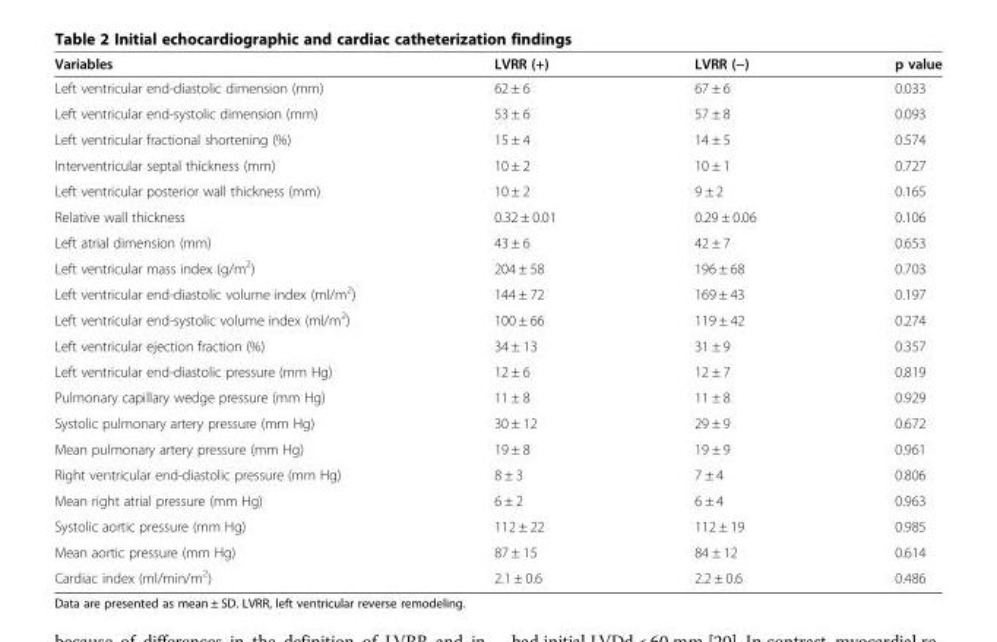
<table><thead><tr><td>Variables</td><td>LVRR (+)</td><td>LVRR (−)</td><td>p value</td></tr></thead><tbody><tr><td>Left ventricular end-diastolic dimension (mm)</td><td>62 ± 6</td><td>67 ± 6</td><td>0.033</td></tr><tr><td>Left ventricular end-systolic dimension (mm)</td><td>53 ± 6</td><td>57 ± 8</td><td>0.093</td></tr><tr><td>Left ventricular fractional shortening (%)</td><td>15 ± 4</td><td>14 ± 5</td><td>0.574</td></tr><tr><td>Interventricular septal thickness (mm)</td><td>10 ± 2</td><td>10 ± 1</td><td>0.727</td></tr><tr><td>Left ventricular posterior wall thickness (mm)</td><td>10 ± 2</td><td>9 ± 2</td><td>0.165</td></tr><tr><td>Relative wall thickness</td><td>0.32 ± 0.01</td><td>0.29 ± 0.06</td><td>0.106</td></tr><tr><td>Left atrial dimension (mm)</td><td>43 ± 6</td><td>42 ± 7</td><td>0.653</td></tr><tr><td>Left ventricular mass index (g/m<sup>2</sup>)</td><td>204 ± 58</td><td>196 ± 68</td><td>0.703</td></tr><tr><td>Left ventricular end-diastolic volume index (ml/m<sup>2</sup>)</td><td>144 ± 72</td><td>169 ± 43</td><td>0.197</td></tr><tr><td>Left ventricular end-systolic volume index (ml/m<sup>2</sup>)</td><td>100 ± 66</td><td>119 ± 42</td><td>0.274</td></tr><tr><td>Left ventricular ejection fraction (%)</td><td>34 ± 13</td><td>31 ± 9</td><td>0.357</td></tr><tr><td>Left ventricular end-diastolic pressure (mm Hg)</td><td>12 ± 6</td><td>12 ± 7</td><td>0.819</td></tr><tr><td>Pulmonary capillary wedge pressure (mm Hg)</td><td>11 ± 8</td><td>11 ± 8</td><td>0.929</td></tr><tr><td>Systolic pulmonary artery pressure (mm Hg)</td><td>30 ± 12</td><td>29 ± 9</td><td>0.672</td></tr><tr><td>Mean pulmonary artery pressure (mm Hg)</td><td>19 ± 8</td><td>19 ± 9</td><td>0.961</td></tr><tr><td>Right ventricular end-diastolic pressure (mm Hg)</td><td>8 ± 3</td><td>7 ± 4</td><td>0.806</td></tr><tr><td>Mean right atrial pressure (mm Hg)</td><td>6 ± 2</td><td>6 ± 4</td><td>0.963</td></tr><tr><td>Systolic aortic pressure (mm Hg)</td><td>112 ± 22</td><td>112 ± 19</td><td>0.985</td></tr><tr><td>Mean aortic pressure (mm Hg)</td><td>87 ± 15</td><td>84 ± 12</td><td>0.614</td></tr><tr><td>Cardiac index (ml/min/m<sup>2</sup>)</td><td>2.1 ± 0.6</td><td>2.2 ± 0.6</td><td>0.486</td></tr></tbody></table>